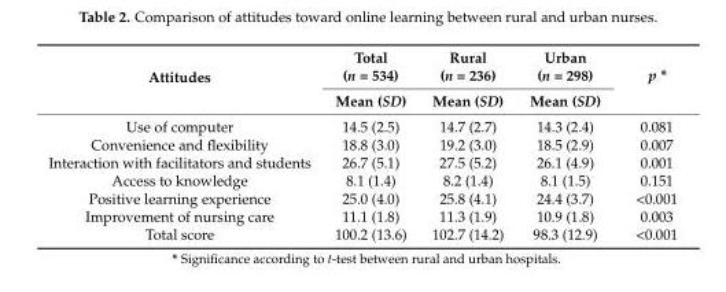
<table><thead><tr><td rowspan="2">Attitudes</td><td rowspan="2">Total (n = 534) Mean (SD)</td><td rowspan="2">Rural (n = 236) Mean (SD)</td><td rowspan="2">Urban (n = 298) Mean (SD)</td><td rowspan="2">p *</td></tr><tr></tr></thead><tbody><tr><td>Use of computer</td><td>14.5 (2.5)</td><td>14.7 (2.7)</td><td>14.3 (2.4)</td><td>0.081</td></tr><tr><td>Convenience and flexibility</td><td>18.8 (3.0)</td><td>19.2 (3.0)</td><td>18.5 (2.9)</td><td>0.007</td></tr><tr><td>Interaction with facilitators and students</td><td>26.7 (5.1)</td><td>27.5 (5.2)</td><td>26.1 (4.9)</td><td>0.001</td></tr><tr><td>Access to knowledge</td><td>8.1 (1.4)</td><td>8.2 (1.4)</td><td>8.1 (1.5)</td><td>0.151</td></tr><tr><td>Positive learning experience</td><td>25.0 (4.0)</td><td>25.8 (4.1)</td><td>24.4 (3.7)</td><td>&lt;0.001</td></tr><tr><td>Improvement of nursing care</td><td>11.1 (1.8)</td><td>11.3 (1.9)</td><td>10.9 (1.8)</td><td>0.003</td></tr><tr><td>Total score</td><td>100.2 (13.6)</td><td>102.7 (14.2)</td><td>98.3 (12.9)</td><td>&lt;0.001</td></tr></tbody></table>